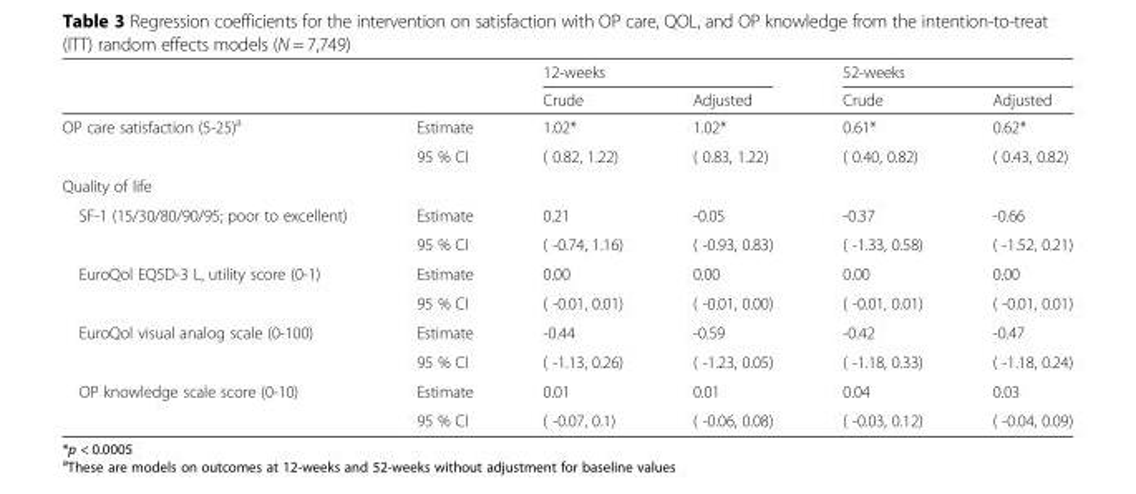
<table><thead><tr><td rowspan="2"></td><td rowspan="2"></td><td colspan="2">12-weeks</td><td colspan="2">52-weeks</td></tr><tr><td>Crude</td><td>Adjusted</td><td>Crude</td><td>Adjusted</td></tr></thead><tbody><tr><td rowspan="2">OP care satisfaction (5-25)<sup>a</sup></td><td>Estimate</td><td>1.02*</td><td>1.02*</td><td>0.61*</td><td>0.62*</td></tr><tr><td>95 % CI</td><td>( 0.82, 1.22)</td><td>( 0.83, 1.22)</td><td>( 0.40, 0.82)</td><td>( 0.43, 0.82)</td></tr><tr><td colspan="6">Quality of life</td></tr><tr><td rowspan="2">SF-1 (15/30/80/90/95; poor to excellent)</td><td>Estimate</td><td>0.21</td><td>-0.05</td><td>-0.37</td><td>-0.66</td></tr><tr><td>95 % CI</td><td>( -0.74, 1.16)</td><td>( -0.93, 0.83)</td><td>( -1.33, 0.58)</td><td>( -1.52, 0.21)</td></tr><tr><td rowspan="2">EuroQol EQ5D-3 L, utility score (0-1)</td><td>Estimate</td><td>0.00</td><td>0.00</td><td>0.00</td><td>0.00</td></tr><tr><td>95 % CI</td><td>( -0.01, 0.01)</td><td>( -0.01, 0.00)</td><td>( -0.01, 0.01)</td><td>( -0.01, 0.01)</td></tr><tr><td rowspan="2">EuroQol visual analog scale (0-100)</td><td>Estimate</td><td>-0.44</td><td>-0.59</td><td>-0.42</td><td>-0.47</td></tr><tr><td>95 % CI</td><td>( -1.13, 0.26)</td><td>( -1.23, 0.05)</td><td>( -1.18, 0.33)</td><td>( -1.18, 0.24)</td></tr><tr><td rowspan="2">OP knowledge scale score (0-10)</td><td>Estimate</td><td>0.01</td><td>0.01</td><td>0.04</td><td>0.03</td></tr><tr><td>95 % CI</td><td>( -0.07, 0.1)</td><td>( -0.06, 0.08)</td><td>( -0.03, 0.12)</td><td>( -0.04, 0.09)</td></tr></tbody></table>